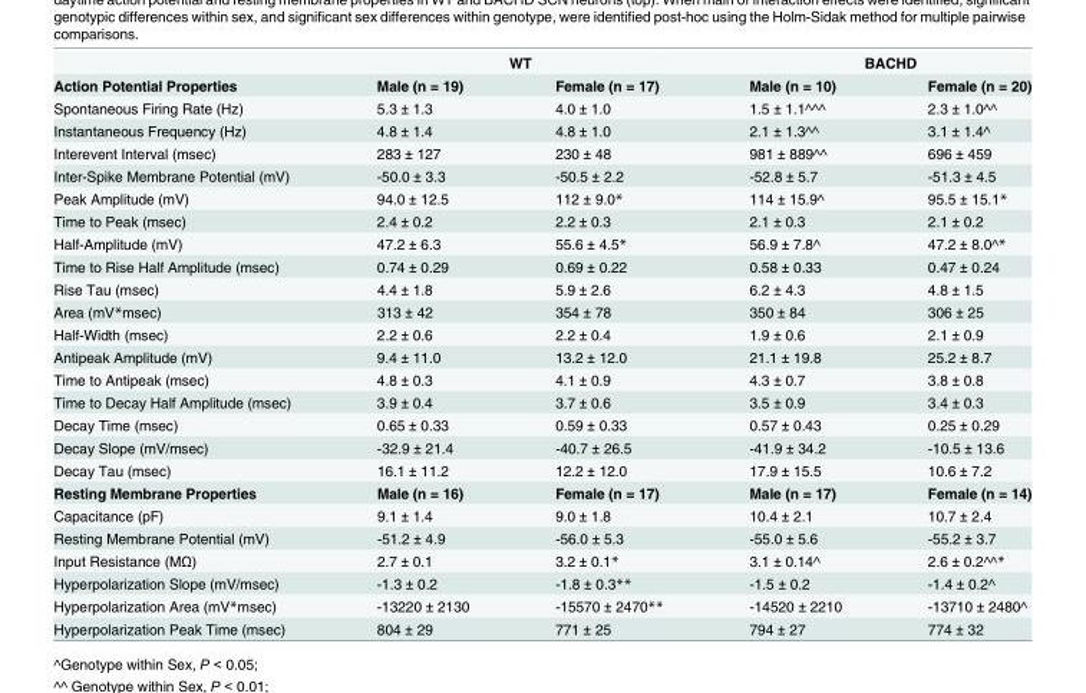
<table><thead><tr><td rowspan="2">Action Potential Properties</td><td colspan="2">WT</td><td colspan="2">BACHD</td></tr><tr><td>Male (n = 19)</td><td>Female (n = 17)</td><td>Male (n = 10)</td><td>Female (n = 20)</td></tr></thead><tbody><tr><td>Spontaneous Firing Rate (Hz)</td><td>5.3 ± 1.3</td><td>4.0 ± 1.0</td><td>1.5 ± 1.1^^^</td><td>2.3 ± 1.0^^</td></tr><tr><td>Instantaneous Frequency (Hz)</td><td>4.8 ± 1.4</td><td>4.8 ± 1.0</td><td>2.1 ± 1.3^^</td><td>3.1 ± 1.4^</td></tr><tr><td>Interevent Interval (msec)</td><td>283 ± 127</td><td>230 ± 48</td><td>981 ± 889^^</td><td>696 ± 459</td></tr><tr><td>Inter-Spike Membrane Potential (mV)</td><td>-50.0 ± 3.3</td><td>-50.5 ± 2.2</td><td>-52.8 ± 5.7</td><td>-51.3 ± 4.5</td></tr><tr><td>Peak Amplitude (mV)</td><td>94.0 ± 12.5</td><td>112 ± 9.0*</td><td>114 ± 15.9^</td><td>95.5 ± 15.1*</td></tr><tr><td>Time to Peak (msec)</td><td>2.4 ± 0.2</td><td>2.2 ± 0.3</td><td>2.1 ± 0.3</td><td>2.1 ± 0.2</td></tr><tr><td>Half-Amplitude (mV)</td><td>47.2 ± 6.3</td><td>55.6 ± 4.5*</td><td>56.9 ± 7.8^</td><td>47.2 ± 8.0^*</td></tr><tr><td>Time to Rise Half Amplitude (msec)</td><td>0.74 ± 0.29</td><td>0.69 ± 0.22</td><td>0.58 ± 0.33</td><td>0.47 ± 0.24</td></tr><tr><td>Rise Tau (msec)</td><td>4.4 ± 1.8</td><td>5.9 ± 2.6</td><td>6.2 ± 4.3</td><td>4.8 ± 1.5</td></tr><tr><td>Area (mV*msec)</td><td>313 ± 42</td><td>354 ± 78</td><td>350 ± 84</td><td>306 ± 25</td></tr><tr><td>Half-Width (msec)</td><td>2.2 ± 0.6</td><td>2.2 ± 0.4</td><td>1.9 ± 0.6</td><td>2.1 ± 0.9</td></tr><tr><td>Antipeak Amplitude (mV)</td><td>9.4 ± 11.0</td><td>13.2 ± 12.0</td><td>21.1 ± 19.8</td><td>25.2 ± 8.7</td></tr><tr><td>Time to Antipeak (msec)</td><td>4.8 ± 0.3</td><td>4.1 ± 0.9</td><td>4.3 ± 0.7</td><td>3.8 ± 0.8</td></tr><tr><td>Time to Decay Half Amplitude (msec)</td><td>3.9 ± 0.4</td><td>3.7 ± 0.6</td><td>3.5 ± 0.9</td><td>3.4 ± 0.3</td></tr><tr><td>Decay Time (msec)</td><td>0.65 ± 0.33</td><td>0.59 ± 0.33</td><td>0.57 ± 0.43</td><td>0.25 ± 0.29</td></tr><tr><td>Decay Slope (mV/msec)</td><td>-32.9 ± 21.4</td><td>-40.7 ± 26.5</td><td>-41.9 ± 34.2</td><td>-10.5 ± 13.6</td></tr><tr><td>Decay Tau (msec)</td><td>16.1 ± 11.2</td><td>12.2 ± 12.0</td><td>17.9 ± 15.5</td><td>10.6 ± 7.2</td></tr><tr><td>Resting Membrane Properties</td><td>Male (n = 16)</td><td>Female (n = 17)</td><td>Male (n = 17)</td><td>Female (n = 14)</td></tr><tr><td>Capacitance (pF)</td><td>9.1 ± 1.4</td><td>9.0 ± 1.8</td><td>10.4 ± 2.1</td><td>10.7 ± 2.4</td></tr><tr><td>Resting Membrane Potential (mV)</td><td>-51.2 ± 4.9</td><td>-56.0 ± 5.3</td><td>-55.0 ± 5.6</td><td>-55.2 ± 3.7</td></tr><tr><td>Input Resistance (MΩ)</td><td>2.7 ± 0.1</td><td>3.2 ± 0.1*</td><td>3.1 ± 0.14^</td><td>2.6 ± 0.2^^*</td></tr><tr><td>Hyperpolarization Slope (mV/msec)</td><td>-1.3 ± 0.2</td><td>-1.8 ± 0.3**</td><td>-1.5 ± 0.2</td><td>-1.4 ± 0.2^</td></tr><tr><td>Hyperpolarization Area (mV*msec)</td><td>-13220 ± 2130</td><td>-15570 ± 2470**</td><td>-14520 ± 2210</td><td>-13710 ± 2480^</td></tr><tr><td>Hyperpolarization Peak Time (msec)</td><td>804 ± 29</td><td>771 ± 25</td><td>794 ± 27</td><td>774 ± 32</td></tr></tbody></table>